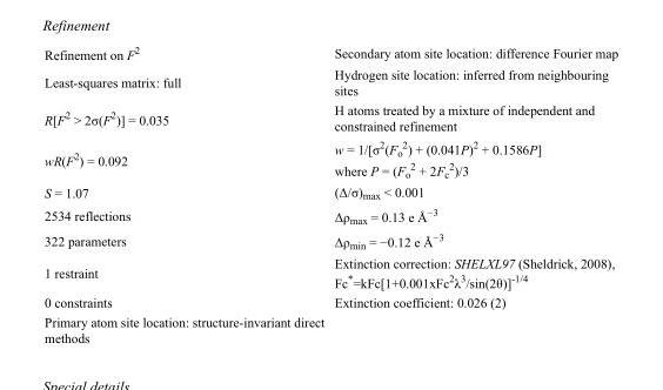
<table><tbody><tr><td>Refinement on F<sup>2</sup></td><td>Secondary atom site location: difference Fourier map</td></tr><tr><td>Least-squares matrix: full</td><td>Hydrogen site location: inferred from neighbouring sites</td></tr><tr><td>R[F<sup>2</sup> &gt; 2σ(F<sup>2</sup>)] = 0.035</td><td>H atoms treated by a mixture of independent and constrained refinement</td></tr><tr><td>wR(F<sup>2</sup>) = 0.092</td><td>w = 1/[σ<sup>2</sup>(F<sub>o</sub> <sup>2</sup>) + (0.041P)<sup>2</sup> + 0.1586P] where P = (F<sub>o</sub> <sup>2</sup> + 2F<sub>c</sub> <sup>2</sup>)/3</td></tr><tr><td>S = 1.07</td><td>(Δ/σ)<sub>max</sub> &lt; 0.001</td></tr><tr><td>2534 reflections</td><td>Δρ<sub>max</sub> = 0.13 e Å<sup>−3</sup></td></tr><tr><td>322 parameters</td><td>Δρ<sub>min</sub> = −0.12 e Å<sup>−3</sup></td></tr><tr><td>1 restraint</td><td>Extinction correction: SHELXL97 (Sheldrick, 2008), Fc*=kFc[1+0.001xFc<sup>2</sup>λ<sup>3</sup>/sin(2θ)]<sup>-1/4</sup></td></tr><tr><td>0 constraints</td><td>Extinction coefficient: 0.026 (2)</td></tr><tr><td>Primary atom site location: structure-invariant direct methods</td><td></td></tr></tbody></table>